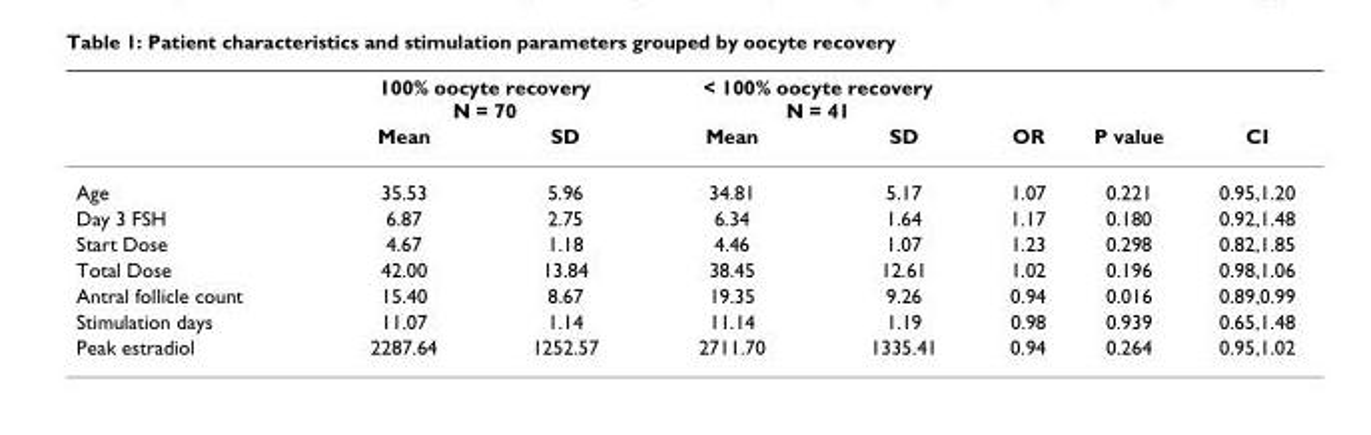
<table><thead><tr><td rowspan="2"></td><td colspan="2">100% oocyte recovery N = 70</td><td colspan="2">&lt; 100% oocyte recovery N = 41</td><td rowspan="2">OR</td><td rowspan="2">P value</td><td rowspan="2">CI</td></tr><tr><td>Mean</td><td>SD</td><td>Mean</td><td>SD</td></tr></thead><tbody><tr><td>Age</td><td>35.53</td><td>5.96</td><td>34.81</td><td>5.17</td><td>1.07</td><td>0.221</td><td>0.95,1.20</td></tr><tr><td>Day 3 FSH</td><td>6.87</td><td>2.75</td><td>6.34</td><td>1.64</td><td>1.17</td><td>0.180</td><td>0.92,1.48</td></tr><tr><td>Start Dose</td><td>4.67</td><td>1.18</td><td>4.46</td><td>1.07</td><td>1.23</td><td>0.298</td><td>0.82,1.85</td></tr><tr><td>Total Dose</td><td>42.00</td><td>13.84</td><td>38.45</td><td>12.61</td><td>1.02</td><td>0.196</td><td>0.98,1.06</td></tr><tr><td>Antral follicle count</td><td>15.40</td><td>8.67</td><td>19.35</td><td>9.26</td><td>0.94</td><td>0.016</td><td>0.89,0.99</td></tr><tr><td>Stimulation days</td><td>11.07</td><td>1.14</td><td>11.14</td><td>1.19</td><td>0.98</td><td>0.939</td><td>0.65,1.48</td></tr><tr><td>Peak estradiol</td><td>2287.64</td><td>1252.57</td><td>2711.70</td><td>1335.41</td><td>0.94</td><td>0.264</td><td>0.95,1.02</td></tr></tbody></table>